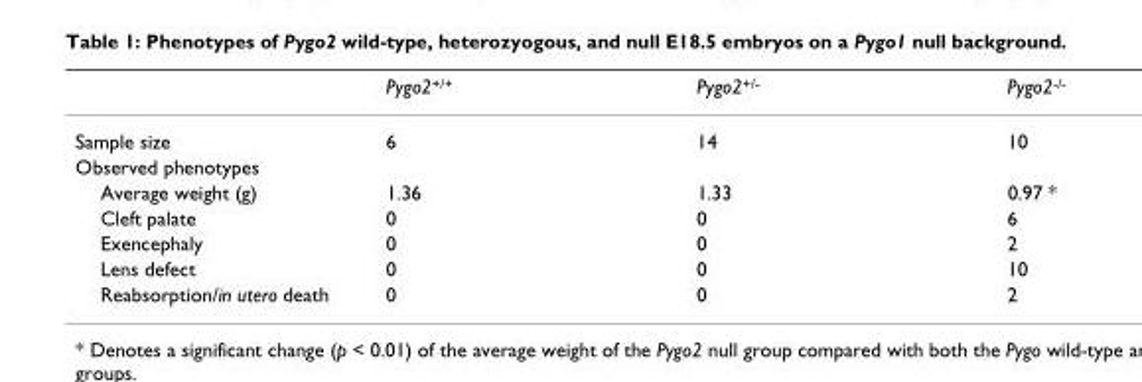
<table><thead><tr><td></td><td>Pygo2<sup>+/+</sup></td><td>Pygo2<sup>+/-</sup></td><td>Pygo2<sup>-/-</sup></td></tr></thead><tbody><tr><td>Sample size</td><td>6</td><td>14</td><td>10</td></tr><tr><td colspan="4">Observed phenotypes</td></tr><tr><td>Average weight (g)</td><td>1.36</td><td>1.33</td><td>0.97 *</td></tr><tr><td>Cleft palate</td><td>0</td><td>0</td><td>6</td></tr><tr><td>Exencephaly</td><td>0</td><td>0</td><td>2</td></tr><tr><td>Lens defect</td><td>0</td><td>0</td><td>10</td></tr><tr><td>Reabsorption/in utero death</td><td>0</td><td>0</td><td>2</td></tr></tbody></table>